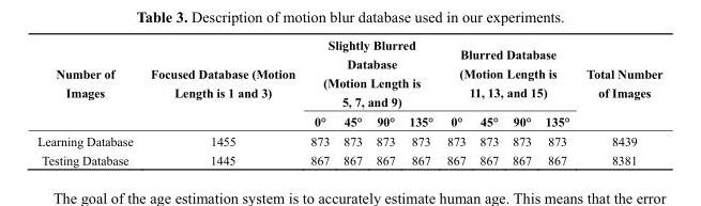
<table><thead><tr><td rowspan="2">Number of Images</td><td rowspan="2">Focused Database (Motion Length is 1 and 3)</td><td colspan="4">Slightly Blurred Database (Motion Length is 5, 7, and 9)</td><td colspan="4">Blurred Database (Motion Length is 11, 13, and 15)</td><td rowspan="2">Total Number of Images</td></tr><tr><td>0°</td><td>45°</td><td>90°</td><td>135°</td><td>0°</td><td>45°</td><td>90°</td><td>135°</td></tr></thead><tbody><tr><td>Learning Database</td><td>1455</td><td>873</td><td>873</td><td>873</td><td>873</td><td>873</td><td>873</td><td>873</td><td>873</td><td>8439</td></tr><tr><td>Testing Database</td><td>1445</td><td>867</td><td>867</td><td>867</td><td>867</td><td>867</td><td>867</td><td>867</td><td>867</td><td>8381</td></tr></tbody></table>